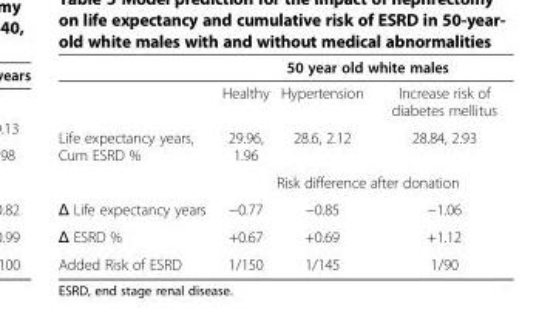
<table><thead><tr><td rowspan="2"></td><td colspan="3">50 year old white males</td></tr><tr><td>Healthy</td><td>Hypertension</td><td>Increase risk of diabetes mellitus</td></tr></thead><tbody><tr><td rowspan="2">Life expectancy years, Cum ESRD %</td><td>29.96, 1.96</td><td>28.6, 2.12</td><td>28.84, 2.93</td></tr><tr><td colspan="3">Risk difference after donation</td></tr><tr><td>Δ Life expectancy years</td><td>−0.77</td><td>−0.85</td><td>−1.06</td></tr><tr><td>Δ ESRD %</td><td>+0.67</td><td>+0.69</td><td>+1.12</td></tr><tr><td>Added Risk of ESRD</td><td>1/150</td><td>1/145</td><td>1/90</td></tr></tbody></table>